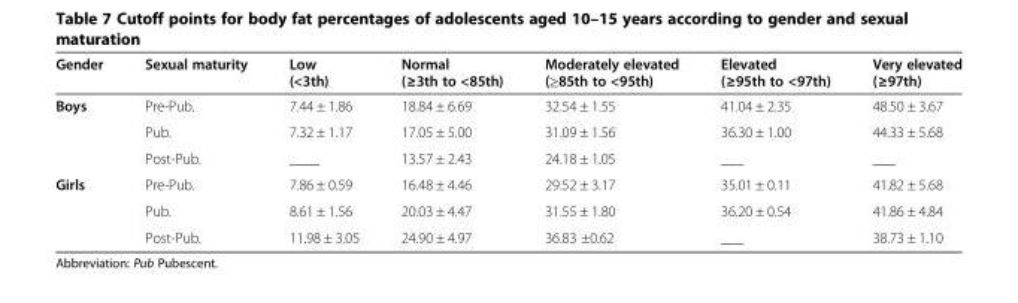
<table><thead><tr><td>Gender</td><td>Sexual maturity</td><td>Low (&lt;3th)</td><td>Normal (≥3th to &lt;85th)</td><td>Moderately elevated (≥85th to &lt;95th)</td><td>Elevated (≥95th to &lt;97th)</td><td>Very elevated (≥97th)</td></tr></thead><tbody><tr><td rowspan="3">Boys</td><td>Pre-Pub.</td><td>7.44 ± 1.86</td><td>18.84 ± 6.69</td><td>32.54 ± 1.55</td><td>41.04 ± 2.35</td><td>48.50 ± 3.67</td></tr><tr><td>Pub.</td><td>7.32 ± 1.17</td><td>17.05 ± 5.00</td><td>31.09 ± 1.56</td><td>36.30 ± 1.00</td><td>44.33 ± 5.68</td></tr><tr><td>Post-Pub.</td><td>____</td><td>13.57 ± 2.43</td><td>24.18 ± 1.05</td><td>___</td><td>___</td></tr><tr><td rowspan="3">Girls</td><td>Pre-Pub.</td><td>7.86 ± 0.59</td><td>16.48 ± 4.46</td><td>29.52 ± 3.17</td><td>35.01 ± 0.11</td><td>41.82 ± 5.68</td></tr><tr><td>Pub.</td><td>8.61 ± 1.56</td><td>20.03 ± 4.47</td><td>31.55 ± 1.80</td><td>36.20 ± 0.54</td><td>41.86 ± 4.84</td></tr><tr><td>Post-Pub.</td><td>11.98 ± 3.05</td><td>24.90 ± 4.97</td><td>36.83 ±0.62</td><td>___</td><td>38.73 ± 1.10</td></tr></tbody></table>